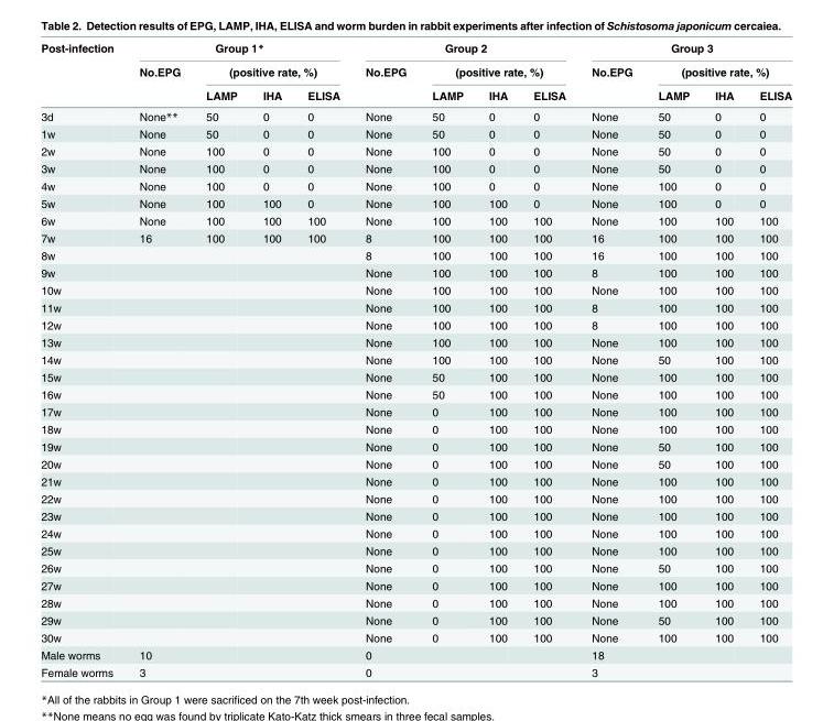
<table><thead><tr><td rowspan="3">Post-infection</td><td colspan="4">Group 1*</td><td colspan="4">Group 2</td><td colspan="4">Group 3</td></tr><tr><td rowspan="2">No.EPG</td><td colspan="3">(positive rate, %)</td><td rowspan="2">No.EPG</td><td colspan="3">(positive rate, %)</td><td rowspan="2">No.EPG</td><td colspan="3">(positive rate, %)</td></tr><tr><td>LAMP</td><td>IHA</td><td>ELISA</td><td>LAMP</td><td>IHA</td><td>ELISA</td><td>LAMP</td><td>IHA</td><td>ELISA</td></tr></thead><tbody><tr><td>3d</td><td>None**</td><td>50</td><td>0</td><td>0</td><td>None</td><td>50</td><td>0</td><td>0</td><td>None</td><td>50</td><td>0</td><td>0</td></tr><tr><td>1w</td><td>None</td><td>50</td><td>0</td><td>0</td><td>None</td><td>50</td><td>0</td><td>0</td><td>None</td><td>50</td><td>0</td><td>0</td></tr><tr><td>2w</td><td>None</td><td>100</td><td>0</td><td>0</td><td>None</td><td>100</td><td>0</td><td>0</td><td>None</td><td>50</td><td>0</td><td>0</td></tr><tr><td>3w</td><td>None</td><td>100</td><td>0</td><td>0</td><td>None</td><td>100</td><td>0</td><td>0</td><td>None</td><td>50</td><td>0</td><td>0</td></tr><tr><td>4w</td><td>None</td><td>100</td><td>0</td><td>0</td><td>None</td><td>100</td><td>0</td><td>0</td><td>None</td><td>100</td><td>0</td><td>0</td></tr><tr><td>5w</td><td>None</td><td>100</td><td>100</td><td>0</td><td>None</td><td>100</td><td>100</td><td>0</td><td>None</td><td>100</td><td>0</td><td>0</td></tr><tr><td>6w</td><td>None</td><td>100</td><td>100</td><td>100</td><td>None</td><td>100</td><td>100</td><td>100</td><td>None</td><td>100</td><td>100</td><td>100</td></tr><tr><td>7w</td><td>16</td><td>100</td><td>100</td><td>100</td><td>8</td><td>100</td><td>100</td><td>100</td><td>16</td><td>100</td><td>100</td><td>100</td></tr><tr><td>8w</td><td></td><td></td><td></td><td></td><td>8</td><td>100</td><td>100</td><td>100</td><td>16</td><td>100</td><td>100</td><td>100</td></tr><tr><td>9w</td><td></td><td></td><td></td><td></td><td>None</td><td>100</td><td>100</td><td>100</td><td>8</td><td>100</td><td>100</td><td>100</td></tr><tr><td>10w</td><td></td><td></td><td></td><td></td><td>None</td><td>100</td><td>100</td><td>100</td><td>None</td><td>100</td><td>100</td><td>100</td></tr><tr><td>11w</td><td></td><td></td><td></td><td></td><td>None</td><td>100</td><td>100</td><td>100</td><td>8</td><td>100</td><td>100</td><td>100</td></tr><tr><td>12w</td><td></td><td></td><td></td><td></td><td>None</td><td>100</td><td>100</td><td>100</td><td>8</td><td>100</td><td>100</td><td>100</td></tr><tr><td>13w</td><td></td><td></td><td></td><td></td><td>None</td><td>100</td><td>100</td><td>100</td><td>None</td><td>100</td><td>100</td><td>100</td></tr><tr><td>14w</td><td></td><td></td><td></td><td></td><td>None</td><td>100</td><td>100</td><td>100</td><td>None</td><td>50</td><td>100</td><td>100</td></tr><tr><td>15w</td><td></td><td></td><td></td><td></td><td>None</td><td>50</td><td>100</td><td>100</td><td>None</td><td>100</td><td>100</td><td>100</td></tr><tr><td>16w</td><td></td><td></td><td></td><td></td><td>None</td><td>50</td><td>100</td><td>100</td><td>None</td><td>100</td><td>100</td><td>100</td></tr><tr><td>17w</td><td></td><td></td><td></td><td></td><td>None</td><td>0</td><td>100</td><td>100</td><td>None</td><td>100</td><td>100</td><td>100</td></tr><tr><td>18w</td><td></td><td></td><td></td><td></td><td>None</td><td>0</td><td>100</td><td>100</td><td>None</td><td>100</td><td>100</td><td>100</td></tr><tr><td>19w</td><td></td><td></td><td></td><td></td><td>None</td><td>0</td><td>100</td><td>100</td><td>None</td><td>50</td><td>100</td><td>100</td></tr><tr><td>20w</td><td></td><td></td><td></td><td></td><td>None</td><td>0</td><td>100</td><td>100</td><td>None</td><td>50</td><td>100</td><td>100</td></tr><tr><td>21w</td><td></td><td></td><td></td><td></td><td>None</td><td>0</td><td>100</td><td>100</td><td>None</td><td>100</td><td>100</td><td>100</td></tr><tr><td>22w</td><td></td><td></td><td></td><td></td><td>None</td><td>0</td><td>100</td><td>100</td><td>None</td><td>100</td><td>100</td><td>100</td></tr><tr><td>23w</td><td></td><td></td><td></td><td></td><td>None</td><td>0</td><td>100</td><td>100</td><td>None</td><td>100</td><td>100</td><td>100</td></tr><tr><td>24w</td><td></td><td></td><td></td><td></td><td>None</td><td>0</td><td>100</td><td>100</td><td>None</td><td>100</td><td>100</td><td>100</td></tr><tr><td>25w</td><td></td><td></td><td></td><td></td><td>None</td><td>0</td><td>100</td><td>100</td><td>None</td><td>100</td><td>100</td><td>100</td></tr><tr><td>26w</td><td></td><td></td><td></td><td></td><td>None</td><td>0</td><td>100</td><td>100</td><td>None</td><td>50</td><td>100</td><td>100</td></tr><tr><td>27w</td><td></td><td></td><td></td><td></td><td>None</td><td>0</td><td>100</td><td>100</td><td>None</td><td>100</td><td>100</td><td>100</td></tr><tr><td>28w</td><td></td><td></td><td></td><td></td><td>None</td><td>0</td><td>100</td><td>100</td><td>None</td><td>100</td><td>100</td><td>100</td></tr><tr><td>29w</td><td></td><td></td><td></td><td></td><td>None</td><td>0</td><td>100</td><td>100</td><td>None</td><td>50</td><td>100</td><td>100</td></tr><tr><td>30w</td><td></td><td></td><td></td><td></td><td>None</td><td>0</td><td>100</td><td>100</td><td>None</td><td>100</td><td>100</td><td>100</td></tr><tr><td>Male worms</td><td>10</td><td></td><td></td><td></td><td>0</td><td></td><td></td><td></td><td>18</td><td></td><td></td><td></td></tr><tr><td>Female worms</td><td>3</td><td></td><td></td><td></td><td>0</td><td></td><td></td><td></td><td>3</td><td></td><td></td><td></td></tr></tbody></table>